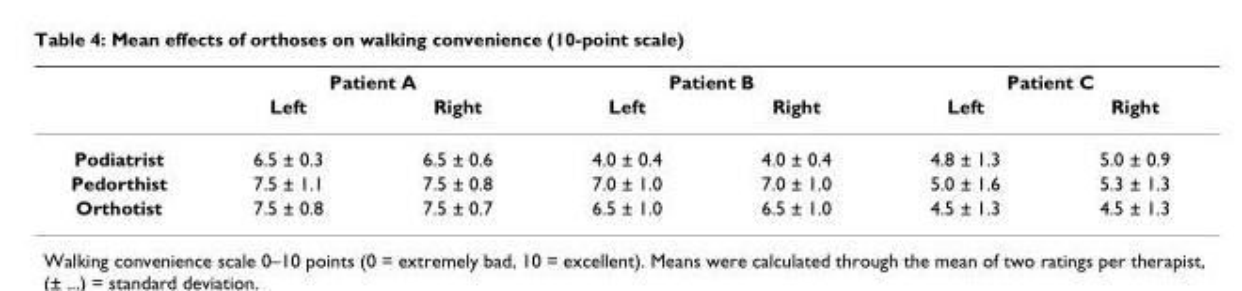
<table><thead><tr><td rowspan="2"></td><td colspan="2">Patient A</td><td colspan="2">Patient B</td><td colspan="2">Patient C</td></tr><tr><td>Left</td><td>Right</td><td>Left</td><td>Right</td><td>Left</td><td>Right</td></tr></thead><tbody><tr><td>Podiatrist</td><td>6.5 ± 0.3</td><td>6.5 ± 0.6</td><td>4.0 ± 0.4</td><td>4.0 ± 0.4</td><td>4.8 ± 1.3</td><td>5.0 ± 0.9</td></tr><tr><td>Pedorthist</td><td>7.5 ± 1.1</td><td>7.5 ± 0.8</td><td>7.0 ± 1.0</td><td>7.0 ± 1.0</td><td>5.0 ± 1.6</td><td>5.3 ± 1.3</td></tr><tr><td>Orthotist</td><td>7.5 ± 0.8</td><td>7.5 ± 0.7</td><td>6.5 ± 1.0</td><td>6.5 ± 1.0</td><td>4.5 ± 1.3</td><td>4.5 ± 1.3</td></tr></tbody></table>